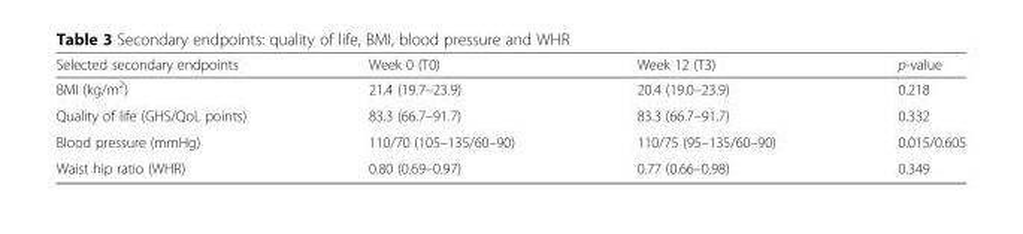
<table><thead><tr><td>Selected secondary endpoints</td><td>Week 0 (T0)</td><td>Week 12 (T3)</td><td>p-value</td></tr></thead><tbody><tr><td>BMI (kg/m<sup>2</sup>)</td><td>21.4 (19.7–23.9)</td><td>20.4 (19.0–23.9)</td><td>0.218</td></tr><tr><td>Quality of life (GHS/QoL points)</td><td>83.3 (66.7–91.7)</td><td>83.3 (66.7–91.7)</td><td>0.332</td></tr><tr><td>Blood pressure (mmHg)</td><td>110/70 (105–135/60–90)</td><td>110/75 (95–135/60–90)</td><td>0.015/0.605</td></tr><tr><td>Waist hip ratio (WHR)</td><td>0.80 (0.69–0.97)</td><td>0.77 (0.66–0.98)</td><td>0.349</td></tr></tbody></table>